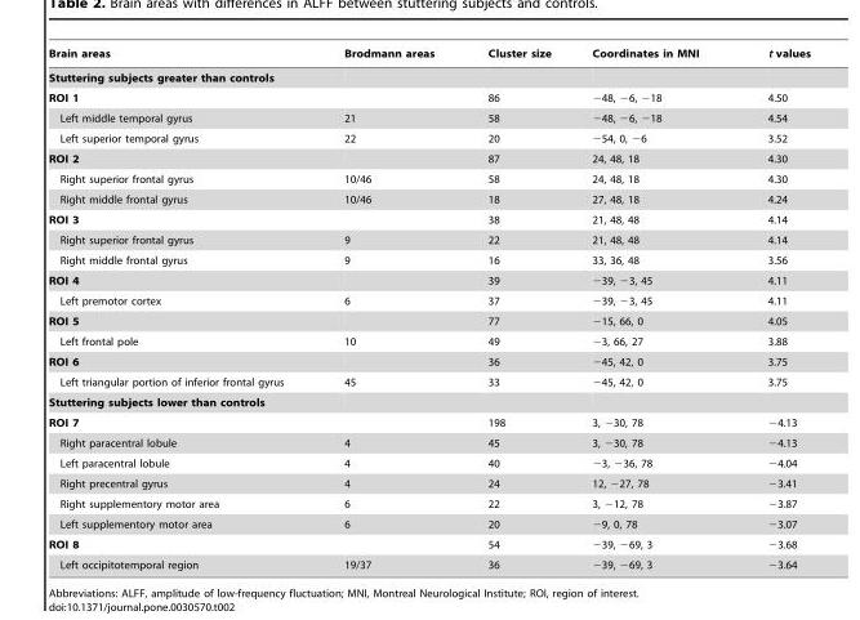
<table><thead><tr><td>Brain areas</td><td>Brodmann areas</td><td>Cluster size</td><td>Coordinates in MNI</td><td>t values</td></tr></thead><tbody><tr><td colspan="5">Stuttering subjects greater than controls</td></tr><tr><td>ROI 1</td><td></td><td>86</td><td>−48, −6, −18</td><td>4.50</td></tr><tr><td>Left middle temporal gyrus</td><td>21</td><td>58</td><td>−48, −6, −18</td><td>4.54</td></tr><tr><td>Left superior temporal gyrus</td><td>22</td><td>20</td><td>−54, 0, −6</td><td>3.52</td></tr><tr><td>ROI 2</td><td></td><td>87</td><td>24, 48, 18</td><td>4.30</td></tr><tr><td>Right superior frontal gyrus</td><td>10/46</td><td>58</td><td>24, 48, 18</td><td>4.30</td></tr><tr><td>Right middle frontal gyrus</td><td>10/46</td><td>18</td><td>27, 48, 18</td><td>4.24</td></tr><tr><td>ROI 3</td><td></td><td>38</td><td>21, 48, 48</td><td>4.14</td></tr><tr><td>Right superior frontal gyrus</td><td>9</td><td>22</td><td>21, 48, 48</td><td>4.14</td></tr><tr><td>Right middle frontal gyrus</td><td>9</td><td>16</td><td>33, 36, 48</td><td>3.56</td></tr><tr><td>ROI 4</td><td></td><td>39</td><td>−39, −3, 45</td><td>4.11</td></tr><tr><td>Left premotor cortex</td><td>6</td><td>37</td><td>−39, −3, 45</td><td>4.11</td></tr><tr><td>ROI 5</td><td></td><td>77</td><td>−15, 66, 0</td><td>4.05</td></tr><tr><td>Left frontal pole</td><td>10</td><td>49</td><td>−3, 66, 27</td><td>3.88</td></tr><tr><td>ROI 6</td><td></td><td>36</td><td>−45, 42, 0</td><td>3.75</td></tr><tr><td>Left triangular portion of inferior frontal gyrus</td><td>45</td><td>33</td><td>−45, 42, 0</td><td>3.75</td></tr><tr><td colspan="5">Stuttering subjects lower than controls</td></tr><tr><td>ROI 7</td><td></td><td>198</td><td>3, −30, 78</td><td>−4.13</td></tr><tr><td>Right paracentral lobule</td><td>4</td><td>45</td><td>3, −30, 78</td><td>−4.13</td></tr><tr><td>Left paracentral lobule</td><td>4</td><td>40</td><td>−3, −36, 78</td><td>−4.04</td></tr><tr><td>Right precentral gyrus</td><td>4</td><td>24</td><td>12, −27, 78</td><td>−3.41</td></tr><tr><td>Right supplementory motor area</td><td>6</td><td>22</td><td>3, −12, 78</td><td>−3.87</td></tr><tr><td>Left supplementory motor area</td><td>6</td><td>20</td><td>−9, 0, 78</td><td>−3.07</td></tr><tr><td>ROI 8</td><td></td><td>54</td><td>−39, −69, 3</td><td>−3.68</td></tr><tr><td>Left occipitotemporal region</td><td>19/37</td><td>36</td><td>−39, −69, 3</td><td>−3.64</td></tr></tbody></table>